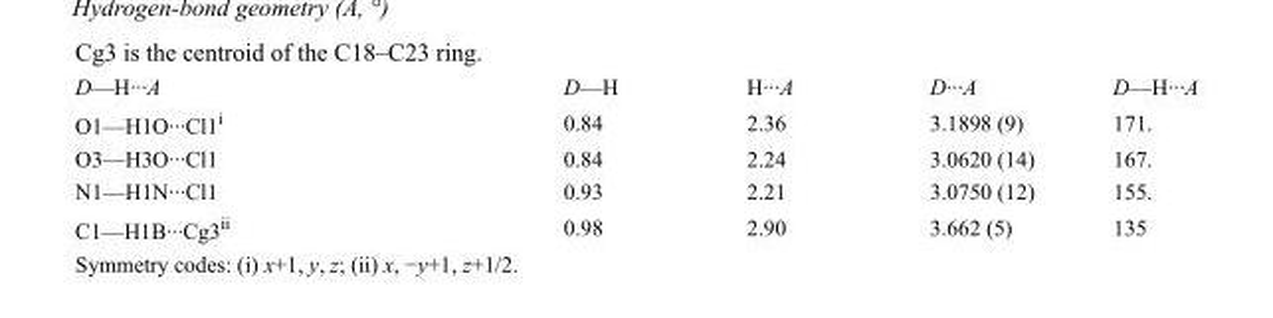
<table><tbody><tr><td>D—H···A</td><td>D—H</td><td>H···A</td><td>D···A</td><td>D—H···A</td></tr><tr><td>O1—H1O···Cl1<sup>i</sup></td><td>0.84</td><td>2.36</td><td>3.1898 (9)</td><td>171.</td></tr><tr><td>O3—H3O···Cl1</td><td>0.84</td><td>2.24</td><td>3.0620 (14)</td><td>167.</td></tr><tr><td>N1—H1N···Cl1</td><td>0.93</td><td>2.21</td><td>3.0750 (12)</td><td>155.</td></tr><tr><td>C1—H1B···Cg3<sup>ii</sup></td><td>0.98</td><td>2.90</td><td>3.662 (5)</td><td>135</td></tr></tbody></table>